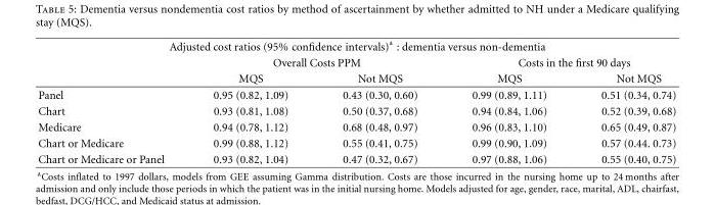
<table><thead><tr><td colspan="5">Adjusted cost ratios (95% confidence intervals)<sup>a</sup> : dementia versus non-dementia</td></tr><tr><td rowspan="2"></td><td colspan="2">Overall Costs PPM</td><td colspan="2">Costs in the first 90 days</td></tr><tr><td>MQS</td><td>Not MQS</td><td>MQS</td><td>Not MQS</td></tr></thead><tbody><tr><td>Panel</td><td>0.95 (0.82, 1.09)</td><td>0.43 (0.30, 0.60)</td><td>0.99 (0.89, 1.11)</td><td>0.51 (0.34, 0.74)</td></tr><tr><td>Chart</td><td>0.93 (0.81, 1.08)</td><td>0.50 (0.37, 0.68)</td><td>0.94 (0.84, 1.06)</td><td>0.52 (0.39, 0.68)</td></tr><tr><td>Medicare</td><td>0.94 (0.78, 1.12)</td><td>0.68 (0.48, 0.97)</td><td>0.96 (0.83, 1.10)</td><td>0.65 (0.49, 0.87)</td></tr><tr><td>Chart or Medicare</td><td>0.99 (0.88, 1.12)</td><td>0.55 (0.41, 0.75)</td><td>0.99 (0.90, 1.09)</td><td>0.57 (0.44. 0.73)</td></tr><tr><td>Chart or Medicare or Panel</td><td>0.93 (0.82, 1.04)</td><td>0.47 (0.32, 0.67)</td><td>0.97 (0.88, 1.06)</td><td>0.55 (0.40, 0.75)</td></tr></tbody></table>